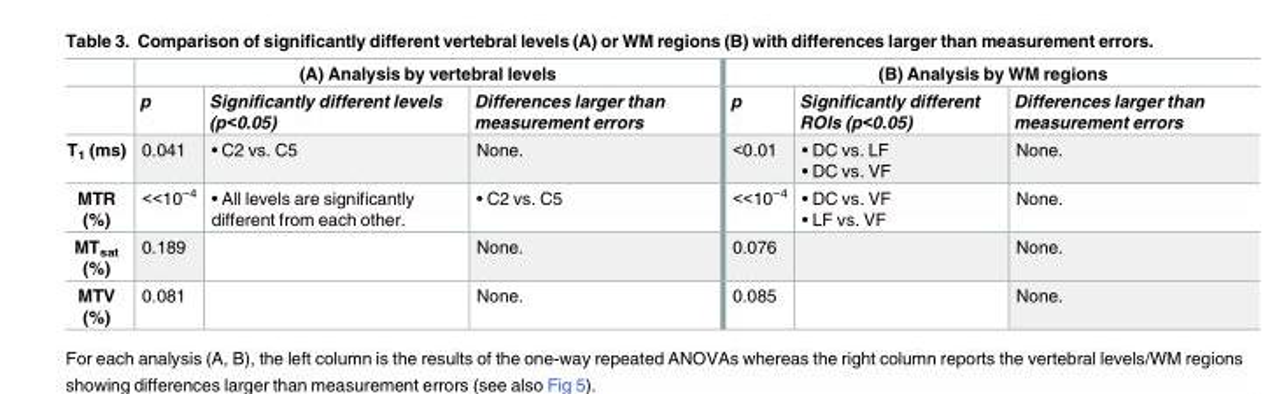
<table><thead><tr><td rowspan="2"></td><td colspan="3">(A) Analysis by vertebral levels</td><td colspan="3">(B) Analysis by WM regions</td></tr><tr><td>p</td><td>Significantly different levels (p&lt;0.05)</td><td>Differences larger than measurement errors</td><td>p</td><td>Significantly different ROIs (p&lt;0.05)</td><td>Differences larger than measurement errors</td></tr></thead><tbody><tr><td>T<sub>1</sub> (ms)</td><td>0.041</td><td>• C2 vs. C5</td><td>None.</td><td>&lt;0.01</td><td>• DC vs. LF • DC vs. VF</td><td>None.</td></tr><tr><td>MTR (%)</td><td>&lt;&lt;10<sup>−4</sup></td><td>• All levels are significantly different from each other.</td><td>• C2 vs. C5</td><td>&lt;&lt;10<sup>−4</sup></td><td>• DC vs. VF • LF vs. VF</td><td>None.</td></tr><tr><td>MT<sub>sat</sub> (%)</td><td>0.189</td><td></td><td>None.</td><td>0.076</td><td></td><td>None.</td></tr><tr><td>MTV (%)</td><td>0.081</td><td></td><td>None.</td><td>0.085</td><td></td><td>None.</td></tr></tbody></table>